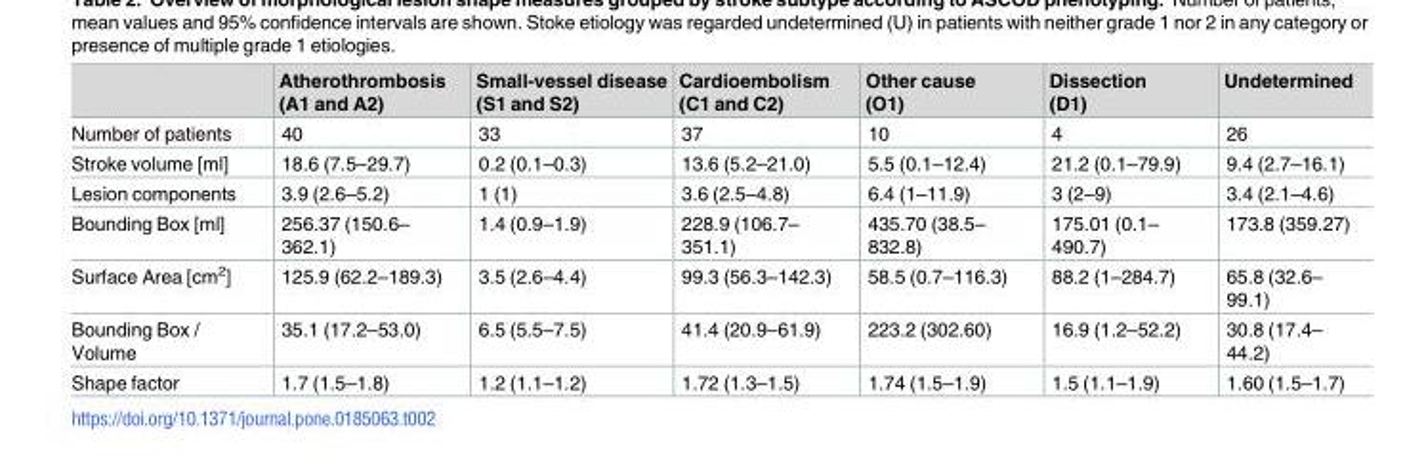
<table><thead><tr><td></td><td>Atherothrombosis (A1 and A2)</td><td>Small-vessel disease (S1 and S2)</td><td>Cardioembolism (C1 and C2)</td><td>Other cause (O1)</td><td>Dissection (D1)</td><td>Undetermined</td></tr></thead><tbody><tr><td>Number of patients</td><td>40</td><td>33</td><td>37</td><td>10</td><td>4</td><td>26</td></tr><tr><td>Stroke volume [ml]</td><td>18.6 (7.5–29.7)</td><td>0.2 (0.1–0.3)</td><td>13.6 (5.2–21.0)</td><td>5.5 (0.1–12.4)</td><td>21.2 (0.1–79.9)</td><td>9.4 (2.7–16.1)</td></tr><tr><td>Lesion components</td><td>3.9 (2.6–5.2)</td><td>1 (1)</td><td>3.6 (2.5–4.8)</td><td>6.4 (1–11.9)</td><td>3 (2–9)</td><td>3.4 (2.1–4.6)</td></tr><tr><td>Bounding Box [ml]</td><td>256.37 (150.6– 362.1)</td><td>1.4 (0.9–1.9)</td><td>228.9 (106.7– 351.1)</td><td>435.70 (38.5– 832.8)</td><td>175.01 (0.1– 490.7)</td><td>173.8 (359.27)</td></tr><tr><td>Surface Area [cm<sup>2</sup>]</td><td>125.9 (62.2–189.3)</td><td>3.5 (2.6–4.4)</td><td>99.3 (56.3–142.3)</td><td>58.5 (0.7–116.3)</td><td>88.2 (1–284.7)</td><td>65.8 (32.6– 99.1)</td></tr><tr><td>Bounding Box / Volume</td><td>35.1 (17.2–53.0)</td><td>6.5 (5.5–7.5)</td><td>41.4 (20.9–61.9)</td><td>223.2 (302.60)</td><td>16.9 (1.2–52.2)</td><td>30.8 (17.4– 44.2)</td></tr><tr><td>Shape factor</td><td>1.7 (1.5–1.8)</td><td>1.2 (1.1–1.2)</td><td>1.72 (1.3–1.5)</td><td>1.74 (1.5–1.9)</td><td>1.5 (1.1–1.9)</td><td>1.60 (1.5–1.7)</td></tr></tbody></table>